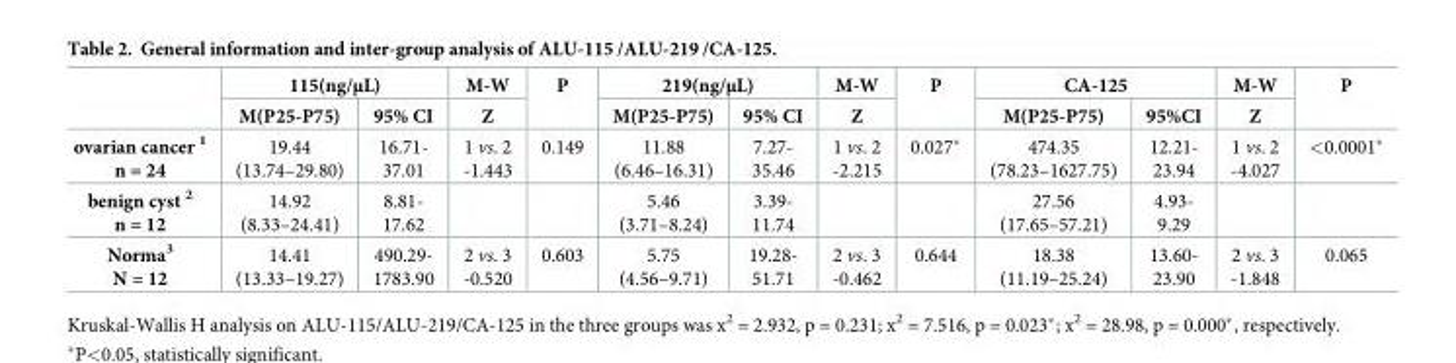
<table><thead><tr><td rowspan="2"></td><td colspan="2">115(ng/μL)</td><td rowspan="2">M-W Z</td><td rowspan="2">P</td><td colspan="2">219(ng/μL)</td><td rowspan="2">M-W Z</td><td rowspan="2">P</td><td colspan="2">CA-125</td><td rowspan="2">M-W Z</td><td rowspan="2">P</td></tr><tr><td>M(P25-P75)</td><td>95% CI</td><td>M(P25-P75)</td><td>95% CI</td><td>M(P25-P75)</td><td>95%CI</td></tr></thead><tbody><tr><td>ovarian cancer <sup>1</sup> n = 24</td><td>19.44 (13.74–29.80)</td><td>16.71- 37.01</td><td>1 vs. 2 -1.443</td><td>0.149</td><td>11.88 (6.46–16.31)</td><td>7.27- 35.46</td><td>1 vs. 2 -2.215</td><td>0.027*</td><td>474.35 (78.23–1627.75)</td><td>12.21- 23.94</td><td>1 vs. 2 -4.027</td><td>&lt;0.0001*</td></tr><tr><td>benign cyst <sup>2</sup> n = 12</td><td>14.92 (8.33–24.41)</td><td>8.81- 17.62</td><td></td><td></td><td>5.46 (3.71–8.24)</td><td>3.39- 11.74</td><td></td><td></td><td>27.56 (17.65–57.21)</td><td>4.93- 9.29</td><td></td><td></td></tr><tr><td>Norma<sup>3</sup> N = 12</td><td>14.41 (13.33–19.27)</td><td>490.29- 1783.90</td><td>2 vs. 3 -0.520</td><td>0.603</td><td>5.75 (4.56–9.71)</td><td>19.28- 51.71</td><td>2 vs. 3 -0.462</td><td>0.644</td><td>18.38 (11.19–25.24)</td><td>13.60- 23.90</td><td>2 vs. 3 -1.848</td><td>0.065</td></tr></tbody></table>